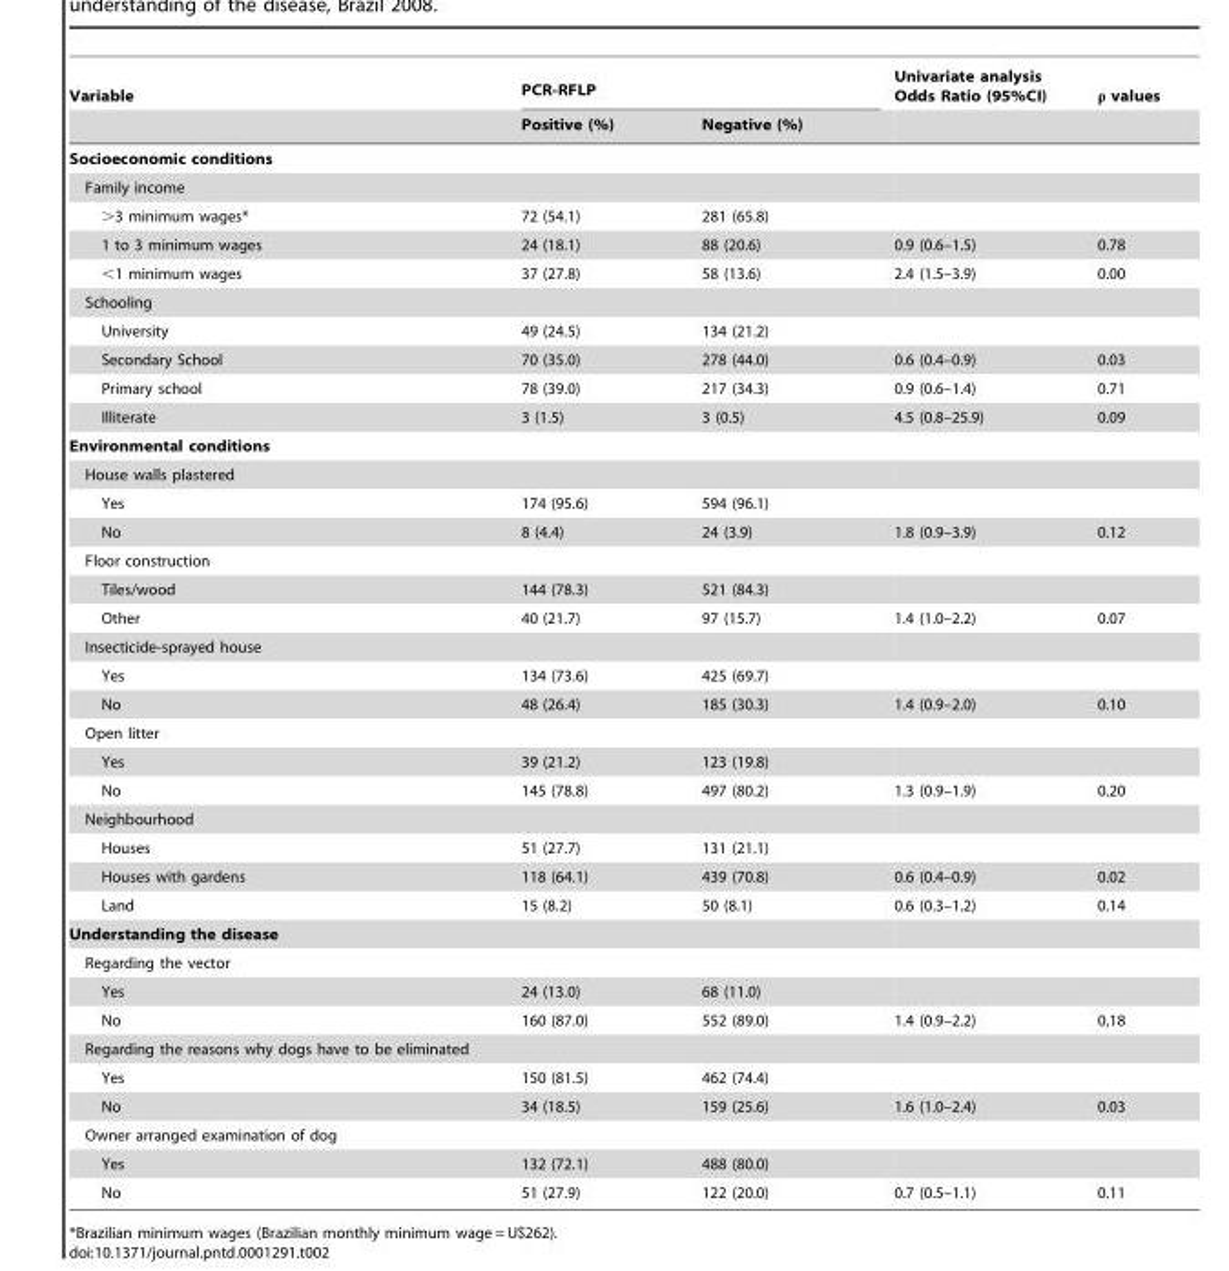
<table><thead><tr><td rowspan="2">Variable</td><td colspan="2">PCR-RFLP</td><td rowspan="2">Univariate analysis Odds Ratio (95%CI)</td><td rowspan="2">ρ values</td></tr><tr><td>Positive (%)</td><td>Negative (%)</td></tr></thead><tbody><tr><td colspan="5">Socioeconomic conditions</td></tr><tr><td colspan="5">Family income</td></tr><tr><td>&gt;3 minimum wages*</td><td>72 (54.1)</td><td>281 (65.8)</td><td></td><td></td></tr><tr><td>1 to 3 minimum wages</td><td>24 (18.1)</td><td>88 (20.6)</td><td>0.9 (0.6–1.5)</td><td>0.78</td></tr><tr><td>&lt;1 minimum wages</td><td>37 (27.8)</td><td>58 (13.6)</td><td>2.4 (1.5–3.9)</td><td>0.00</td></tr><tr><td colspan="5">Schooling</td></tr><tr><td>University</td><td>49 (24.5)</td><td>134 (21.2)</td><td></td><td></td></tr><tr><td>Secondary School</td><td>70 (35.0)</td><td>278 (44.0)</td><td>0.6 (0.4–0.9)</td><td>0.03</td></tr><tr><td>Primary school</td><td>78 (39.0)</td><td>217 (34.3)</td><td>0.9 (0.6–1.4)</td><td>0.71</td></tr><tr><td>Illiterate</td><td>3 (1.5)</td><td>3 (0.5)</td><td>4.5 (0.8–25.9)</td><td>0.09</td></tr><tr><td colspan="5">Environmental conditions</td></tr><tr><td colspan="5">House walls plastered</td></tr><tr><td>Yes</td><td>174 (95.6)</td><td>594 (96.1)</td><td></td><td></td></tr><tr><td>No</td><td>8 (4.4)</td><td>24 (3.9)</td><td>1.8 (0.9–3.9)</td><td>0.12</td></tr><tr><td colspan="5">Floor construction</td></tr><tr><td>Tiles/wood</td><td>144 (78.3)</td><td>521 (84.3)</td><td></td><td></td></tr><tr><td>Other</td><td>40 (21.7)</td><td>97 (15.7)</td><td>1.4 (1.0–2.2)</td><td>0.07</td></tr><tr><td colspan="5">Insecticide-sprayed house</td></tr><tr><td>Yes</td><td>134 (73.6)</td><td>425 (69.7)</td><td></td><td></td></tr><tr><td>No</td><td>48 (26.4)</td><td>185 (30.3)</td><td>1.4 (0.9–2.0)</td><td>0.10</td></tr><tr><td colspan="5">Open litter</td></tr><tr><td>Yes</td><td>39 (21.2)</td><td>123 (19.8)</td><td></td><td></td></tr><tr><td>No</td><td>145 (78.8)</td><td>497 (80.2)</td><td>1.3 (0.9–1.9)</td><td>0.20</td></tr><tr><td colspan="5">Neighbourhood</td></tr><tr><td>Houses</td><td>51 (27.7)</td><td>131 (21.1)</td><td></td><td></td></tr><tr><td>Houses with gardens</td><td>118 (64.1)</td><td>439 (70.8)</td><td>0.6 (0.4–0.9)</td><td>0.02</td></tr><tr><td>Land</td><td>15 (8.2)</td><td>50 (8.1)</td><td>0.6 (0.3–1.2)</td><td>0.14</td></tr><tr><td colspan="5">Understanding the disease</td></tr><tr><td colspan="5">Regarding the vector</td></tr><tr><td>Yes</td><td>24 (13.0)</td><td>68 (11.0)</td><td></td><td></td></tr><tr><td>No</td><td>160 (87.0)</td><td>552 (89.0)</td><td>1.4 (0.9–2.2)</td><td>0,18</td></tr><tr><td colspan="5">Regarding the reasons why dogs have to be eliminated</td></tr><tr><td>Yes</td><td>150 (81.5)</td><td>462 (74.4)</td><td></td><td></td></tr><tr><td>No</td><td>34 (18.5)</td><td>159 (25.6)</td><td>1.6 (1.0–2.4)</td><td>0.03</td></tr><tr><td colspan="5">Owner arranged examination of dog</td></tr><tr><td>Yes</td><td>132 (72.1)</td><td>488 (80.0)</td><td></td><td></td></tr><tr><td>No</td><td>51 (27.9)</td><td>122 (20.0)</td><td>0.7 (0.5–1.1)</td><td>0.11</td></tr></tbody></table>